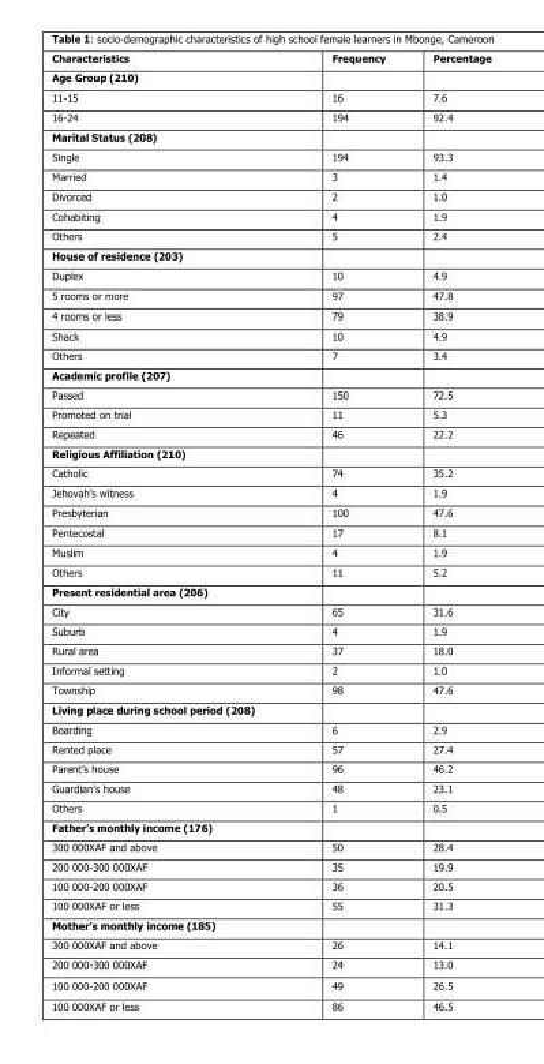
<table><thead><tr><td>Characteristics</td><td>Frequency</td><td>Percentage</td></tr></thead><tbody><tr><td colspan="3">Age Group (210)</td></tr><tr><td>11-15</td><td>16</td><td>7.6</td></tr><tr><td>16-24</td><td>194</td><td>92.4</td></tr><tr><td colspan="3">Marital Status (208)</td></tr><tr><td>Single</td><td>194</td><td>93.3</td></tr><tr><td>Married</td><td>3</td><td>1.4</td></tr><tr><td>Divorced</td><td>2</td><td>1.0</td></tr><tr><td>Cohabiting</td><td>4</td><td>1.9</td></tr><tr><td>Others</td><td>5</td><td>2.4</td></tr><tr><td colspan="3">House of residence (203)</td></tr><tr><td>Duplex</td><td>10</td><td>4.9</td></tr><tr><td>5 rooms or more</td><td>97</td><td>47.8</td></tr><tr><td>4 rooms or less</td><td>79</td><td>38.9</td></tr><tr><td>Shack</td><td>10</td><td>4.9</td></tr><tr><td>Others</td><td>7</td><td>3.4</td></tr><tr><td colspan="3">Academic profile (207)</td></tr><tr><td>Passed</td><td>150</td><td>72.5</td></tr><tr><td>Promoted on trial</td><td>11</td><td>5.3</td></tr><tr><td>Repeated</td><td>46</td><td>22.2</td></tr><tr><td colspan="3">Religious Affiliation (210)</td></tr><tr><td>Catholic</td><td>74</td><td>35.2</td></tr><tr><td>Jehovah’s witness</td><td>4</td><td>1.9</td></tr><tr><td>Presbyterian</td><td>100</td><td>47.6</td></tr><tr><td>Pentecostal</td><td>17</td><td>8.1</td></tr><tr><td>Muslim</td><td>4</td><td>1.9</td></tr><tr><td>Others</td><td>11</td><td>5.2</td></tr><tr><td colspan="3">Present residential area (206)</td></tr><tr><td>City</td><td>65</td><td>31.6</td></tr><tr><td>Suburb</td><td>4</td><td>1.9</td></tr><tr><td>Rural area</td><td>37</td><td>18.0</td></tr><tr><td>Informal setting</td><td>2</td><td>1.0</td></tr><tr><td>Township</td><td>98</td><td>47.6</td></tr><tr><td colspan="3">Living place during school period (208)</td></tr><tr><td>Boarding</td><td>6</td><td>2.9</td></tr><tr><td>Rented place</td><td>57</td><td>27.4</td></tr><tr><td>Parent’s house</td><td>96</td><td>46.2</td></tr><tr><td>Guardian’s house</td><td>48</td><td>23.1</td></tr><tr><td>Others</td><td>1</td><td>0.5</td></tr><tr><td colspan="3">Father’s monthly income (176)</td></tr><tr><td>300 000XAF and above</td><td>50</td><td>28.4</td></tr><tr><td>200 000-300 000XAF</td><td>35</td><td>19.9</td></tr><tr><td>100 000-200 000XAF</td><td>36</td><td>20.5</td></tr><tr><td>100 000XAF or less</td><td>55</td><td>31.3</td></tr><tr><td colspan="3">Mother’s monthly income (185)</td></tr><tr><td>300 000XAF and above</td><td>26</td><td>14.1</td></tr><tr><td>200 000-300 000XAF</td><td>24</td><td>13.0</td></tr><tr><td>100 000-200 000XAF</td><td>49</td><td>26.5</td></tr><tr><td>100 000XAF or less</td><td>86</td><td>46.5</td></tr></tbody></table>